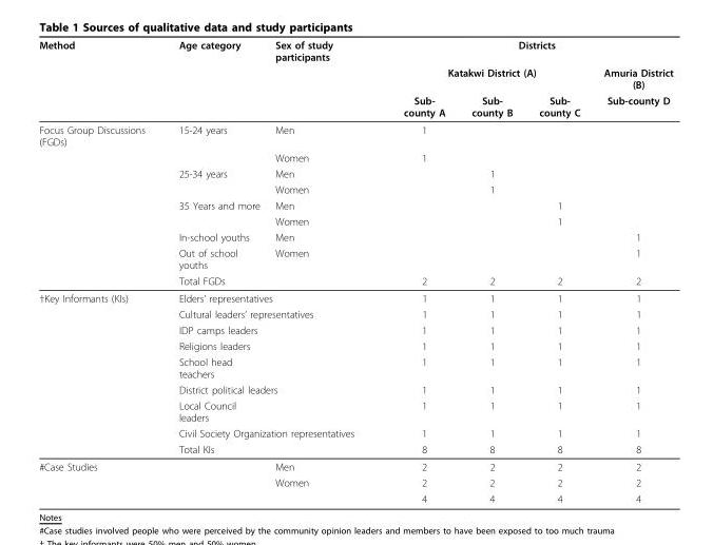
<table><thead><tr><td rowspan="3">Method</td><td rowspan="3">Age category</td><td rowspan="3">Sex of study participants</td><td colspan="4">Districts</td></tr><tr><td colspan="3">Katakwi District (A)</td><td rowspan="2">Amuria District (B) Sub-county D</td></tr><tr><td>Sub- county A</td><td>Sub- county B</td><td>Sub- county C</td></tr></thead><tbody><tr><td rowspan="9">Focus Group Discussions (FGDs)</td><td>15-24 years</td><td>Men</td><td>1</td><td></td><td></td><td></td></tr><tr><td></td><td>Women</td><td>1</td><td></td><td></td><td></td></tr><tr><td>25-34 years</td><td>Men</td><td></td><td>1</td><td></td><td></td></tr><tr><td></td><td>Women</td><td></td><td>1</td><td></td><td></td></tr><tr><td>35 Years and more</td><td>Men</td><td></td><td></td><td>1</td><td></td></tr><tr><td></td><td>Women</td><td></td><td></td><td>1</td><td></td></tr><tr><td>In-school youths</td><td>Men</td><td></td><td></td><td></td><td>1</td></tr><tr><td>Out of school youths</td><td>Women</td><td></td><td></td><td></td><td>1</td></tr><tr><td>Total FGDs</td><td></td><td>2</td><td>2</td><td>2</td><td>2</td></tr><tr><td rowspan="9">†Key Informants (KIs)</td><td colspan="2">Elders’ representatives</td><td>1</td><td>1</td><td>1</td><td>1</td></tr><tr><td colspan="2">Cultural leaders’ representatives</td><td>1</td><td>1</td><td>1</td><td>1</td></tr><tr><td>IDP camps leaders</td><td></td><td>1</td><td>1</td><td>1</td><td>1</td></tr><tr><td>Religions leaders</td><td></td><td>1</td><td>1</td><td>1</td><td>1</td></tr><tr><td>School head teachers</td><td></td><td>1</td><td>1</td><td>1</td><td>1</td></tr><tr><td colspan="2">District political leaders</td><td>1</td><td>1</td><td>1</td><td>1</td></tr><tr><td>Local Council leaders</td><td></td><td>1</td><td>1</td><td>1</td><td>1</td></tr><tr><td colspan="2">Civil Society Organization representatives</td><td>1</td><td>1</td><td>1</td><td>1</td></tr><tr><td>Total KIs</td><td></td><td>8</td><td>8</td><td>8</td><td>8</td></tr><tr><td rowspan="3">#Case Studies</td><td></td><td>Men</td><td>2</td><td>2</td><td>2</td><td>2</td></tr><tr><td></td><td>Women</td><td>2</td><td>2</td><td>2</td><td>2</td></tr><tr><td></td><td></td><td>4</td><td>4</td><td>4</td><td>4</td></tr></tbody></table>